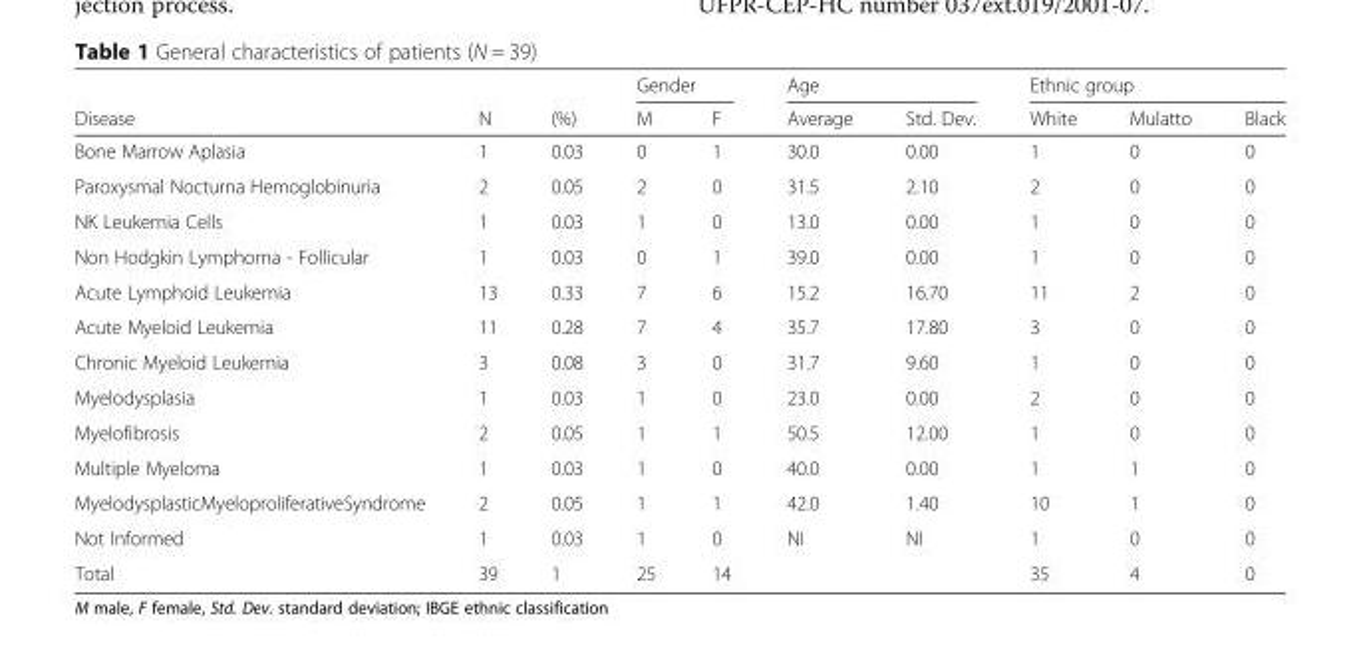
<table><thead><tr><td rowspan="2">Disease</td><td rowspan="2">N</td><td rowspan="2">(%)</td><td colspan="2">Gender</td><td colspan="2">Age</td><td colspan="3">Ethnic group</td></tr><tr><td>M</td><td>F</td><td>Average</td><td>Std. Dev.</td><td>White</td><td>Mulatto</td><td>Black</td></tr></thead><tbody><tr><td>Bone Marrow Aplasia</td><td>1</td><td>0.03</td><td>0</td><td>1</td><td>30.0</td><td>0.00</td><td>1</td><td>0</td><td>0</td></tr><tr><td>Paroxysmal Nocturna Hemoglobinuria</td><td>2</td><td>0.05</td><td>2</td><td>0</td><td>31.5</td><td>2.10</td><td>2</td><td>0</td><td>0</td></tr><tr><td>NK Leukemia Cells</td><td>1</td><td>0.03</td><td>1</td><td>0</td><td>13.0</td><td>0.00</td><td>1</td><td>0</td><td>0</td></tr><tr><td>Non Hodgkin Lymphoma - Follicular</td><td>1</td><td>0.03</td><td>0</td><td>1</td><td>39.0</td><td>0.00</td><td>1</td><td>0</td><td>0</td></tr><tr><td>Acute Lymphoid Leukemia</td><td>13</td><td>0.33</td><td>7</td><td>6</td><td>15.2</td><td>16.70</td><td>11</td><td>2</td><td>0</td></tr><tr><td>Acute Myeloid Leukemia</td><td>11</td><td>0.28</td><td>7</td><td>4</td><td>35.7</td><td>17.80</td><td>3</td><td>0</td><td>0</td></tr><tr><td>Chronic Myeloid Leukemia</td><td>3</td><td>0.08</td><td>3</td><td>0</td><td>31.7</td><td>9.60</td><td>1</td><td>0</td><td>0</td></tr><tr><td>Myelodysplasia</td><td>1</td><td>0.03</td><td>1</td><td>0</td><td>23.0</td><td>0.00</td><td>2</td><td>0</td><td>0</td></tr><tr><td>Myelofibrosis</td><td>2</td><td>0.05</td><td>1</td><td>1</td><td>50.5</td><td>12.00</td><td>1</td><td>0</td><td>0</td></tr><tr><td>Multiple Myeloma</td><td>1</td><td>0.03</td><td>1</td><td>0</td><td>40.0</td><td>0.00</td><td>1</td><td>1</td><td>0</td></tr><tr><td>MyelodysplasticMyeloproliferativeSyndrome</td><td>2</td><td>0.05</td><td>1</td><td>1</td><td>42.0</td><td>1.40</td><td>10</td><td>1</td><td>0</td></tr><tr><td>Not Informed</td><td>1</td><td>0.03</td><td>1</td><td>0</td><td>NI</td><td>NI</td><td>1</td><td>0</td><td>0</td></tr><tr><td>Total</td><td>39</td><td>1</td><td>25</td><td>14</td><td></td><td></td><td>35</td><td>4</td><td>0</td></tr></tbody></table>